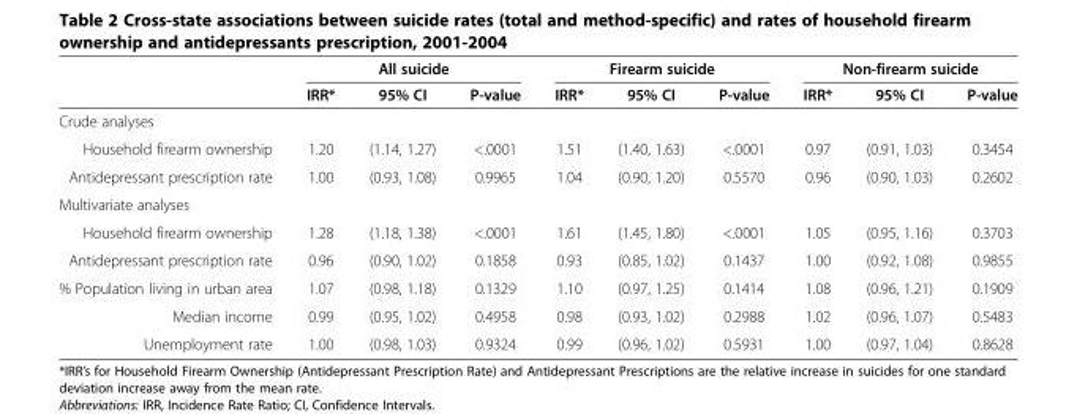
<table><thead><tr><td rowspan="2"></td><td colspan="3">All suicide</td><td colspan="3">Firearm suicide</td><td colspan="3">Non-firearm suicide</td></tr><tr><td>IRR*</td><td>95% CI</td><td>P-value</td><td>IRR*</td><td>95% CI</td><td>P-value</td><td>IRR*</td><td>95% CI</td><td>P-value</td></tr></thead><tbody><tr><td colspan="10">Crude analyses</td></tr><tr><td>Household firearm ownership</td><td>1.20</td><td>(1.14, 1.27)</td><td>&lt;.0001</td><td>1.51</td><td>(1.40, 1.63)</td><td>&lt;.0001</td><td>0.97</td><td>(0.91, 1.03)</td><td>0.3454</td></tr><tr><td>Antidepressant prescription rate</td><td>1.00</td><td>(0.93, 1.08)</td><td>0.9965</td><td>1.04</td><td>(0.90, 1.20)</td><td>0.5570</td><td>0.96</td><td>(0.90, 1.03)</td><td>0.2602</td></tr><tr><td colspan="10">Multivariate analyses</td></tr><tr><td>Household firearm ownership</td><td>1.28</td><td>(1.18, 1.38)</td><td>&lt;.0001</td><td>1.61</td><td>(1.45, 1.80)</td><td>&lt;.0001</td><td>1.05</td><td>(0.95, 1.16)</td><td>0.3703</td></tr><tr><td>Antidepressant prescription rate</td><td>0.96</td><td>(0.90, 1.02)</td><td>0.1858</td><td>0.93</td><td>(0.85, 1.02)</td><td>0.1437</td><td>1.00</td><td>(0.92, 1.08)</td><td>0.9855</td></tr><tr><td>% Population living in urban area</td><td>1.07</td><td>(0.98, 1.18)</td><td>0.1329</td><td>1.10</td><td>(0.97, 1.25)</td><td>0.1414</td><td>1.08</td><td>(0.96, 1.21)</td><td>0.1909</td></tr><tr><td>Median income</td><td>0.99</td><td>(0.95, 1.02)</td><td>0.4958</td><td>0.98</td><td>(0.93, 1.02)</td><td>0.2988</td><td>1.02</td><td>(0.96, 1.07)</td><td>0.5483</td></tr><tr><td>Unemployment rate</td><td>1.00</td><td>(0.98, 1.03)</td><td>0.9324</td><td>0.99</td><td>(0.96, 1.02)</td><td>0.5931</td><td>1.00</td><td>(0.97, 1.04)</td><td>0.8628</td></tr></tbody></table>